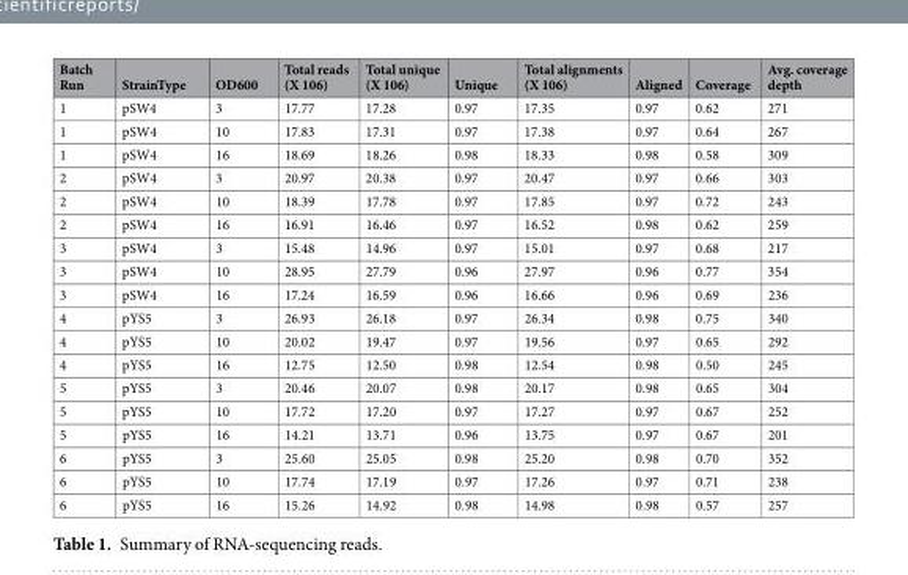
<table><thead><tr><td>Batch Run</td><td>StrainType</td><td>OD600</td><td>Total reads (X 106)</td><td>Total unique (X 106)</td><td>Unique</td><td>Total alignments (X 106)</td><td>Aligned</td><td>Coverage</td><td>Avg. coverage depth</td></tr></thead><tbody><tr><td>1</td><td>pSW4</td><td>3</td><td>17.77</td><td>17.28</td><td>0.97</td><td>17.35</td><td>0.97</td><td>0.62</td><td>271</td></tr><tr><td>1</td><td>pSW4</td><td>10</td><td>17.83</td><td>17.31</td><td>0.97</td><td>17.38</td><td>0.97</td><td>0.64</td><td>267</td></tr><tr><td>1</td><td>pSW4</td><td>16</td><td>18.69</td><td>18.26</td><td>0.98</td><td>18.33</td><td>0.98</td><td>0.58</td><td>309</td></tr><tr><td>2</td><td>pSW4</td><td>3</td><td>20.97</td><td>20.38</td><td>0.97</td><td>20.47</td><td>0.97</td><td>0.66</td><td>303</td></tr><tr><td>2</td><td>pSW4</td><td>10</td><td>18.39</td><td>17.78</td><td>0.97</td><td>17.85</td><td>0.97</td><td>0.72</td><td>243</td></tr><tr><td>2</td><td>pSW4</td><td>16</td><td>16.91</td><td>16.46</td><td>0.97</td><td>16.52</td><td>0.98</td><td>0.62</td><td>259</td></tr><tr><td>3</td><td>pSW4</td><td>3</td><td>15.48</td><td>14.96</td><td>0.97</td><td>15.01</td><td>0.97</td><td>0.68</td><td>217</td></tr><tr><td>3</td><td>pSW4</td><td>10</td><td>28.95</td><td>27.79</td><td>0.96</td><td>27.97</td><td>0.96</td><td>0.77</td><td>354</td></tr><tr><td>3</td><td>pSW4</td><td>16</td><td>17.24</td><td>16.59</td><td>0.96</td><td>16.66</td><td>0.96</td><td>0.69</td><td>236</td></tr><tr><td>4</td><td>pYS5</td><td>3</td><td>26.93</td><td>26.18</td><td>0.97</td><td>26.34</td><td>0.98</td><td>0.75</td><td>340</td></tr><tr><td>4</td><td>pYS5</td><td>10</td><td>20.02</td><td>19.47</td><td>0.97</td><td>19.56</td><td>0.97</td><td>0.65</td><td>292</td></tr><tr><td>4</td><td>pYS5</td><td>16</td><td>12.75</td><td>12.50</td><td>0.98</td><td>12.54</td><td>0.98</td><td>0.50</td><td>245</td></tr><tr><td>5</td><td>pYS5</td><td>3</td><td>20.46</td><td>20.07</td><td>0.98</td><td>20.17</td><td>0.98</td><td>0.65</td><td>304</td></tr><tr><td>5</td><td>pYS5</td><td>10</td><td>17.72</td><td>17.20</td><td>0.97</td><td>17.27</td><td>0.97</td><td>0.67</td><td>252</td></tr><tr><td>5</td><td>pYS5</td><td>16</td><td>14.21</td><td>13.71</td><td>0.96</td><td>13.75</td><td>0.97</td><td>0.67</td><td>201</td></tr><tr><td>6</td><td>pYS5</td><td>3</td><td>25.60</td><td>25.05</td><td>0.98</td><td>25.20</td><td>0.98</td><td>0.70</td><td>352</td></tr><tr><td>6</td><td>pYS5</td><td>10</td><td>17.74</td><td>17.19</td><td>0.97</td><td>17.26</td><td>0.97</td><td>0.71</td><td>238</td></tr><tr><td>6</td><td>pYS5</td><td>16</td><td>15.26</td><td>14.92</td><td>0.98</td><td>14.98</td><td>0.98</td><td>0.57</td><td>257</td></tr></tbody></table>